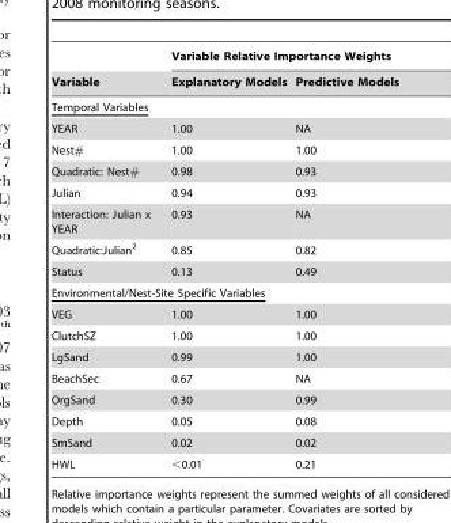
<table><thead><tr><td rowspan="2">Variable</td><td colspan="2">Variable Relative Importance Weights</td></tr><tr><td>Explanatory Models</td><td>Predictive Models</td></tr></thead><tbody><tr><td colspan="3">Temporal Variables</td></tr><tr><td>YEAR</td><td>1.00</td><td>NA</td></tr><tr><td>Nest#</td><td>1.00</td><td>1.00</td></tr><tr><td>Quadratic: Nest#</td><td>0.98</td><td>0.93</td></tr><tr><td>Julian</td><td>0.94</td><td>0.93</td></tr><tr><td>Interaction: Julian x YEAR</td><td>0.93</td><td>NA</td></tr><tr><td>Quadratic:Julian<sup>2</sup></td><td>0.85</td><td>0.82</td></tr><tr><td>Status</td><td>0.13</td><td>0.49</td></tr><tr><td colspan="3">Environmental/Nest-Site Specific Variables</td></tr><tr><td>VEG</td><td>1.00</td><td>1.00</td></tr><tr><td>ClutchSZ</td><td>1.00</td><td>1.00</td></tr><tr><td>LgSand</td><td>0.99</td><td>1.00</td></tr><tr><td>BeachSec</td><td>0.67</td><td>NA</td></tr><tr><td>OrgSand</td><td>0.30</td><td>0.99</td></tr><tr><td>Depth</td><td>0.05</td><td>0.08</td></tr><tr><td>SmSand</td><td>0.02</td><td>0.02</td></tr><tr><td>HWL</td><td>&lt;0.01</td><td>0.21</td></tr></tbody></table>